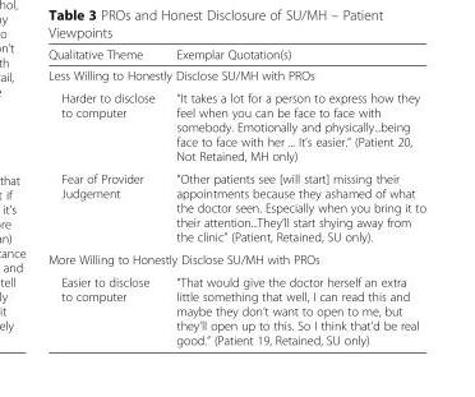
<table><thead><tr><td>Qualitative Theme</td><td>Exemplar Quotation(s)</td></tr></thead><tbody><tr><td colspan="2">Less Willing to Honestly Disclose SU/MH with PROs</td></tr><tr><td>Harder to disclose to computer</td><td>“It takes a lot for a person to express how they feel when you can be face to face with somebody. Emotionally and physically...being face to face with her ... It’s easier.” (Patient 20, Not Retained, MH only)</td></tr><tr><td>Fear of Provider Judgement</td><td>“Other patients see [will start] missing their appointments because they ashamed of what the doctor seen. Especially when you bring it to their attention...They’ll start shying away from the clinic” (Patient, Retained, SU only).</td></tr><tr><td colspan="2">More Willing to Honestly Disclose SU/MH with PROs</td></tr><tr><td>Easier to disclose to computer</td><td>“That would give the doctor herself an extra little something that well, I can read this and maybe they don’t want to open to me, but they’ll open up to this. So I think that’d be real good.” (Patient 19, Retained, SU only)</td></tr></tbody></table>